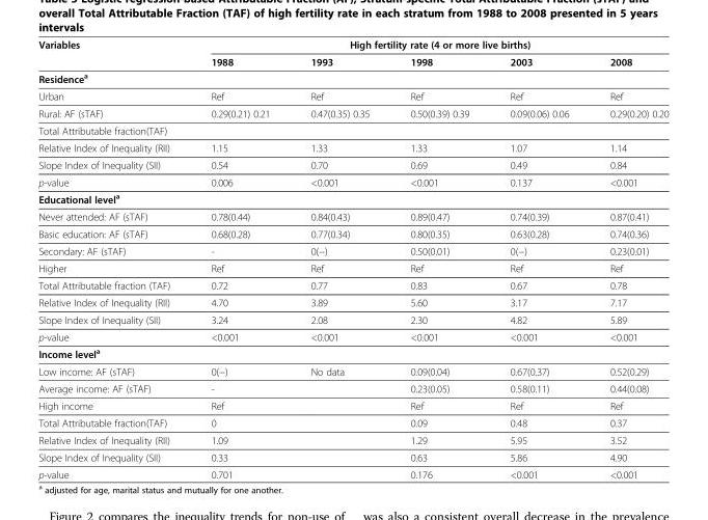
<table><thead><tr><td rowspan="2">Variables</td><td colspan="5">High fertility rate (4 or more live births)</td></tr><tr><td>1988</td><td>1993</td><td>1998</td><td>2003</td><td>2008</td></tr></thead><tbody><tr><td colspan="6">Residence<sup>a</sup></td></tr><tr><td>Urban</td><td>Ref</td><td>Ref</td><td>Ref</td><td>Ref</td><td>Ref</td></tr><tr><td>Rural: AF (sTAF)</td><td>0.29(0.21) 0.21</td><td>0.47(0.35) 0.35</td><td>0.50(0.39) 0.39</td><td>0.09(0.06) 0.06</td><td>0.29(0.20) 0.20</td></tr><tr><td colspan="6">Total Attributable fraction(TAF)</td></tr><tr><td>Relative Index of Inequality (RII)</td><td>1.15</td><td>1.33</td><td>1.33</td><td>1.07</td><td>1.14</td></tr><tr><td>Slope Index of Inequality (SII)</td><td>0.54</td><td>0.70</td><td>0.69</td><td>0.49</td><td>0.84</td></tr><tr><td>p-value</td><td>0.006</td><td>&lt;0.001</td><td>&lt;0.001</td><td>0.137</td><td>&lt;0.001</td></tr><tr><td colspan="6">Educational level<sup>a</sup></td></tr><tr><td>Never attended: AF (sTAF)</td><td>0.78(0.44)</td><td>0.84(0.43)</td><td>0.89(0.47)</td><td>0.74(0.39)</td><td>0.87(0.41)</td></tr><tr><td>Basic education: AF (sTAF)</td><td>0.68(0.28)</td><td>0.77(0.34)</td><td>0.80(0.35)</td><td>0.63(0.28)</td><td>0.74(0.36)</td></tr><tr><td>Secondary: AF (sTAF)</td><td>-</td><td>0(−)</td><td>0.50(0.01)</td><td>0(−)</td><td>0.23(0.01)</td></tr><tr><td>Higher</td><td>Ref</td><td>Ref</td><td>Ref</td><td>Ref</td><td>Ref</td></tr><tr><td>Total Attributable fraction (TAF)</td><td>0.72</td><td>0.77</td><td>0.83</td><td>0.67</td><td>0.78</td></tr><tr><td>Relative Index of Inequality (RII)</td><td>4.70</td><td>3.89</td><td>5.60</td><td>3.17</td><td>7.17</td></tr><tr><td>Slope Index of Inequality (SII)</td><td>3.24</td><td>2.08</td><td>2.30</td><td>4.82</td><td>5.89</td></tr><tr><td>p-value</td><td>&lt;0.001</td><td>&lt;0.001</td><td>&lt;0.001</td><td>&lt;0.001</td><td>&lt;0.001</td></tr><tr><td colspan="6">Income level<sup>a</sup></td></tr><tr><td>Low income: AF (sTAF)</td><td>0(−)</td><td>No data</td><td>0.09(0.04)</td><td>0.67(0.37)</td><td>0.52(0.29)</td></tr><tr><td>Average income: AF (sTAF)</td><td>-</td><td></td><td>0.23(0.05)</td><td>0.58(0.11)</td><td>0.44(0.08)</td></tr><tr><td>High income</td><td>Ref</td><td></td><td>Ref</td><td>Ref</td><td>Ref</td></tr><tr><td>Total Attributable fraction(TAF)</td><td>0</td><td></td><td>0.09</td><td>0.48</td><td>0.37</td></tr><tr><td>Relative Index of Inequality (RII)</td><td>1.09</td><td></td><td>1.29</td><td>5.95</td><td>3.52</td></tr><tr><td>Slope Index of Inequality (SII)</td><td>0.33</td><td></td><td>0.63</td><td>5.86</td><td>4.90</td></tr><tr><td>p-value</td><td>0.701</td><td></td><td>0.176</td><td>&lt;0.001</td><td>&lt;0.001</td></tr></tbody></table>